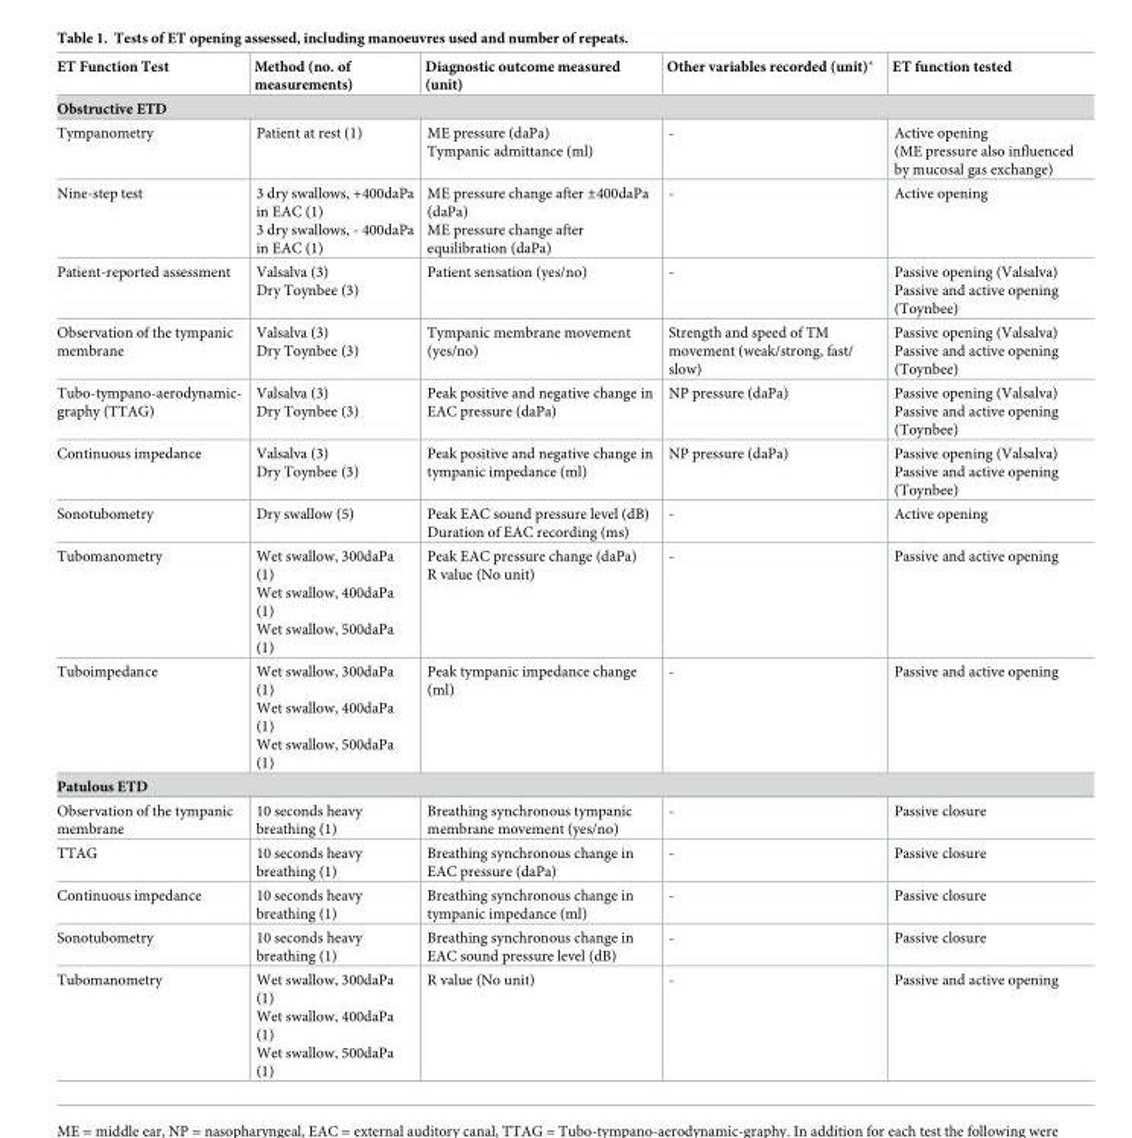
<table><thead><tr><td>ET Function Test</td><td>Method (no. of measurements)</td><td>Diagnostic outcome measured (unit)</td><td>Other variables recorded (unit)*</td><td>ET function tested</td></tr></thead><tbody><tr><td colspan="5">Obstructive ETD</td></tr><tr><td>Tympanometry</td><td>Patient at rest (1)</td><td>ME pressure (daPa) Tympanic admittance (ml)</td><td>-</td><td>Active opening (ME pressure also influenced by mucosal gas exchange)</td></tr><tr><td>Nine-step test</td><td>3 dry swallows, +400daPa in EAC (1) 3 dry swallows, - 400daPa in EAC (1)</td><td>ME pressure change after ±400daPa (daPa) ME pressure change after equilibration (daPa)</td><td>-</td><td>Active opening</td></tr><tr><td>Patient-reported assessment</td><td>Valsalva (3) Dry Toynbee (3)</td><td>Patient sensation (yes/no)</td><td>-</td><td>Passive opening (Valsalva) Passive and active opening (Toynbee)</td></tr><tr><td>Observation of the tympanic membrane</td><td>Valsalva (3) Dry Toynbee (3)</td><td>Tympanic membrane movement (yes/no)</td><td>Strength and speed of TM movement (weak/strong, fast/ slow)</td><td>Passive opening (Valsalva) Passive and active opening (Toynbee)</td></tr><tr><td>Tubo-tympano-aerodynamic- graphy (TTAG)</td><td>Valsalva (3) Dry Toynbee (3)</td><td>Peak positive and negative change in EAC pressure (daPa)</td><td>NP pressure (daPa)</td><td>Passive opening (Valsalva) Passive and active opening (Toynbee)</td></tr><tr><td>Continuous impedance</td><td>Valsalva (3) Dry Toynbee (3)</td><td>Peak positive and negative change in tympanic impedance (ml)</td><td>NP pressure (daPa)</td><td>Passive opening (Valsalva) Passive and active opening (Toynbee)</td></tr><tr><td>Sonotubometry</td><td>Dry swallow (5)</td><td>Peak EAC sound pressure level (dB) Duration of EAC recording (ms)</td><td>-</td><td>Active opening</td></tr><tr><td>Tubomanometry</td><td>Wet swallow, 300daPa (1) Wet swallow, 400daPa (1) Wet swallow, 500daPa (1)</td><td>Peak EAC pressure change (daPa) R value (No unit)</td><td>-</td><td>Passive and active opening</td></tr><tr><td>Tuboimpedance</td><td>Wet swallow, 300daPa (1) Wet swallow, 400daPa (1) Wet swallow, 500daPa (1)</td><td>Peak tympanic impedance change (ml)</td><td>-</td><td>Passive and active opening</td></tr><tr><td colspan="5">Patulous ETD</td></tr><tr><td>Observation of the tympanic membrane</td><td>10 seconds heavy breathing (1)</td><td>Breathing synchronous tympanic membrane movement (yes/no)</td><td>-</td><td>Passive closure</td></tr><tr><td>TTAG</td><td>10 seconds heavy breathing (1)</td><td>Breathing synchronous change in EAC pressure (daPa)</td><td>-</td><td>Passive closure</td></tr><tr><td>Continuous impedance</td><td>10 seconds heavy breathing (1)</td><td>Breathing synchronous change in tympanic impedance (ml)</td><td>-</td><td>Passive closure</td></tr><tr><td>Sonotubometry</td><td>10 seconds heavy breathing (1)</td><td>Breathing synchronous change in EAC sound pressure level (dB)</td><td>-</td><td>Passive closure</td></tr><tr><td>Tubomanometry</td><td>Wet swallow, 300daPa (1) Wet swallow, 400daPa (1) Wet swallow, 500daPa (1)</td><td>R value (No unit)</td><td>-</td><td>Passive and active opening</td></tr></tbody></table>